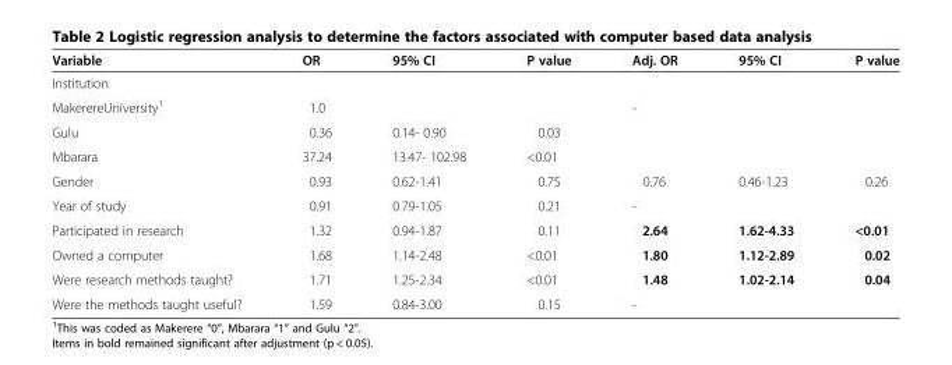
<table><thead><tr><td>Variable</td><td>OR</td><td>95% CI</td><td>P value</td><td>Adj. OR</td><td>95% CI</td><td>P value</td></tr></thead><tbody><tr><td colspan="7">Institution</td></tr><tr><td>MakerereUniversity<sup>1</sup></td><td>1.0</td><td></td><td></td><td>-</td><td></td><td></td></tr><tr><td>Gulu</td><td>0.36</td><td>0.14- 0.90</td><td>0.03</td><td></td><td></td><td></td></tr><tr><td>Mbarara</td><td>37.24</td><td>13.47- 102.98</td><td>&lt;0.01</td><td></td><td></td><td></td></tr><tr><td>Gender</td><td>0.93</td><td>0.62-1.41</td><td>0.75</td><td>0.76</td><td>0.46-1.23</td><td>0.26</td></tr><tr><td>Year of study</td><td>0.91</td><td>0.79-1.05</td><td>0.21</td><td>-</td><td></td><td></td></tr><tr><td>Participated in research</td><td>1.32</td><td>0.94-1.87</td><td>0.11</td><td>2.64</td><td>1.62-4.33</td><td>&lt;0.01</td></tr><tr><td>Owned a computer</td><td>1.68</td><td>1.14-2.48</td><td>&lt;0.01</td><td>1.80</td><td>1.12-2.89</td><td>0.02</td></tr><tr><td>Were research methods taught?</td><td>1.71</td><td>1.25-2.34</td><td>&lt;0.01</td><td>1.48</td><td>1.02-2.14</td><td>0.04</td></tr><tr><td>Were the methods taught useful?</td><td>1.59</td><td>0.84-3.00</td><td>0.15</td><td>-</td><td></td><td></td></tr></tbody></table>